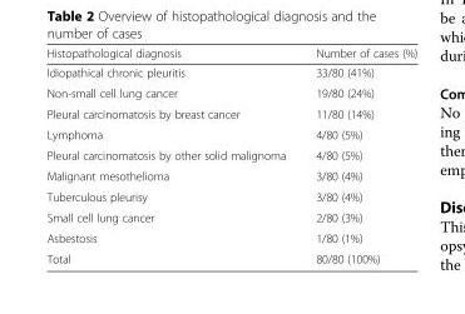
<table><thead><tr><td>Histopathological diagnosis</td><td>Number of cases (%)</td></tr></thead><tbody><tr><td>Idiopathical chronic pleuritis</td><td>33/80 (41%)</td></tr><tr><td>Non-small cell lung cancer</td><td>19/80 (24%)</td></tr><tr><td>Pleural carcinomatosis by breast cancer</td><td>11/80 (14%)</td></tr><tr><td>Lymphoma</td><td>4/80 (5%)</td></tr><tr><td>Pleural carcinomatosis by other solid malignoma</td><td>4/80 (5%)</td></tr><tr><td>Malignant mesothelioma</td><td>3/80 (4%)</td></tr><tr><td>Tuberculous pleurisy</td><td>3/80 (4%)</td></tr><tr><td>Small cell lung cancer</td><td>2/80 (3%)</td></tr><tr><td>Asbestosis</td><td>1/80 (1%)</td></tr><tr><td>Total</td><td>80/80 (100%)</td></tr></tbody></table>